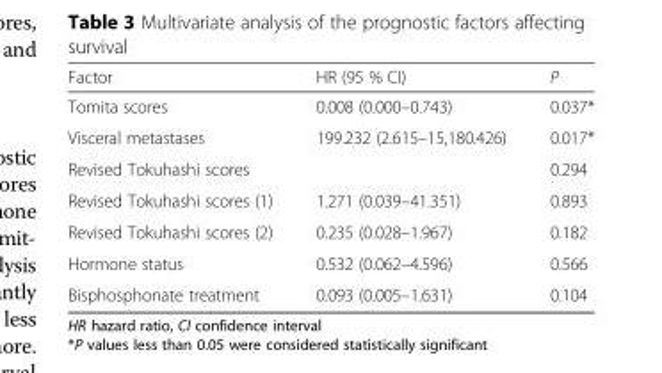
<table><thead><tr><td>Factor</td><td>HR (95 % CI)</td><td>P</td></tr></thead><tbody><tr><td>Tomita scores</td><td>0.008 (0.000–0.743)</td><td>0.037*</td></tr><tr><td>Visceral metastases</td><td>199.232 (2.615–15,180.426)</td><td>0.017*</td></tr><tr><td>Revised Tokuhashi scores</td><td></td><td>0.294</td></tr><tr><td>Revised Tokuhashi scores (1)</td><td>1.271 (0.039–41.351)</td><td>0.893</td></tr><tr><td>Revised Tokuhashi scores (2)</td><td>0.235 (0.028–1.967)</td><td>0.182</td></tr><tr><td>Hormone status</td><td>0.532 (0.062–4.596)</td><td>0.566</td></tr><tr><td>Bisphosphonate treatment</td><td>0.093 (0.005–1.631)</td><td>0.104</td></tr></tbody></table>